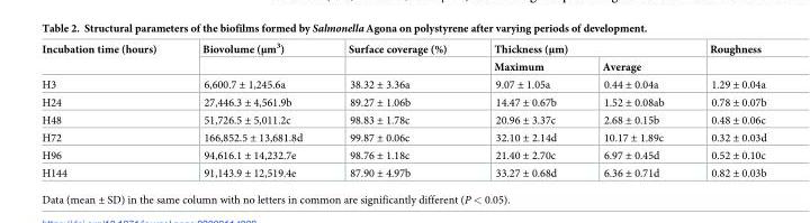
<table><thead><tr><td rowspan="2">Incubation time (hours)</td><td rowspan="2">Biovolume (μm<sup>3</sup>)</td><td rowspan="2">Surface coverage (%)</td><td colspan="2">Thickness (μm)</td><td rowspan="2">Roughness</td></tr><tr><td>Maximum</td><td>Average</td></tr></thead><tbody><tr><td>H3</td><td>6,600.7 ± 1,245.6a</td><td>38.32 ± 3.36a</td><td>9.07 ± 1.05a</td><td>0.44 ± 0.04a</td><td>1.29 ± 0.04a</td></tr><tr><td>H24</td><td>27,446.3 ± 4,561.9b</td><td>89.27 ± 1.06b</td><td>14.47 ± 0.67b</td><td>1.52 ± 0.08ab</td><td>0.78 ± 0.07b</td></tr><tr><td>H48</td><td>51,726.5 ± 5,011.2c</td><td>98.83 ± 1.78c</td><td>20.96 ± 3.37c</td><td>2.68 ± 0.15b</td><td>0.48 ± 0.06c</td></tr><tr><td>H72</td><td>166,852.5 ± 13,681.8d</td><td>99.87 ± 0.06c</td><td>32.10 ± 2.14d</td><td>10.17 ± 1.89c</td><td>0.32 ± 0.03d</td></tr><tr><td>H96</td><td>94,616.1 ± 14,232.7e</td><td>98.76 ± 1.18c</td><td>21.40 ± 2.70c</td><td>6.97 ± 0.45d</td><td>0.52 ± 0.10c</td></tr><tr><td>H144</td><td>91,143.9 ± 12,519.4e</td><td>87.90 ± 4.97b</td><td>33.27 ± 0.68d</td><td>6.36 ± 0.71d</td><td>0.82 ± 0.03b</td></tr></tbody></table>